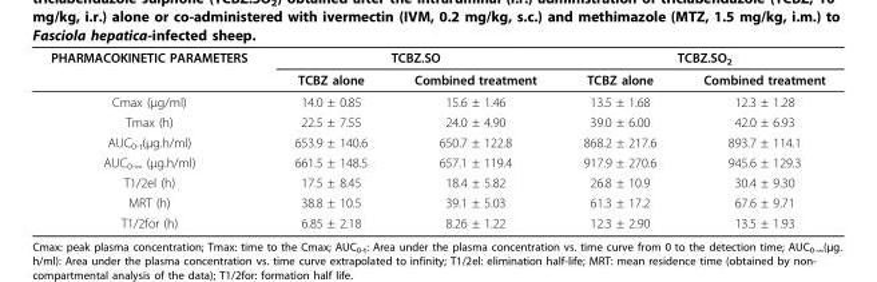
<table><thead><tr><td rowspan="2">PHARMACOKINETIC PARAMETERS</td><td colspan="2">TCBZ.SO</td><td colspan="2">TCBZ.SO<sub>2</sub></td></tr><tr><td>TCBZ alone</td><td>Combined treatment</td><td>TCBZ alone</td><td>Combined treatment</td></tr></thead><tbody><tr><td>Cmax (μg/ml)</td><td>14.0 ± 0.85</td><td>15.6 ± 1.46</td><td>13.5 ± 1.68</td><td>12.3 ± 1.28</td></tr><tr><td>Tmax (h)</td><td>22.5 ± 7.55</td><td>24.0 ± 4.90</td><td>39.0 ± 6.00</td><td>42.0 ± 6.93</td></tr><tr><td>AUC<sub>0-t</sub>(μg.h/ml)</td><td>653.9 ± 140.6</td><td>650.7 ± 122.8</td><td>868.2 ± 217.6</td><td>893.7 ± 114.1</td></tr><tr><td>AUC<sub>0-∞</sub> (μg.h/ml)</td><td>661.5 ± 148.5</td><td>657.1 ± 119.4</td><td>917.9 ± 270.6</td><td>945.6 ± 129.3</td></tr><tr><td>T1/2el (h)</td><td>17.5 ± 8.45</td><td>18.4 ± 5.82</td><td>26.8 ± 10.9</td><td>30.4 ± 9.30</td></tr><tr><td>MRT (h)</td><td>38.8 ± 10.5</td><td>39.1 ± 5.03</td><td>61.3 ± 17.2</td><td>67.6 ± 9.71</td></tr><tr><td>T1/2for (h)</td><td>6.85 ± 2.18</td><td>8.26 ± 1.22</td><td>12.3 ± 2.90</td><td>13.5 ± 1.93</td></tr></tbody></table>